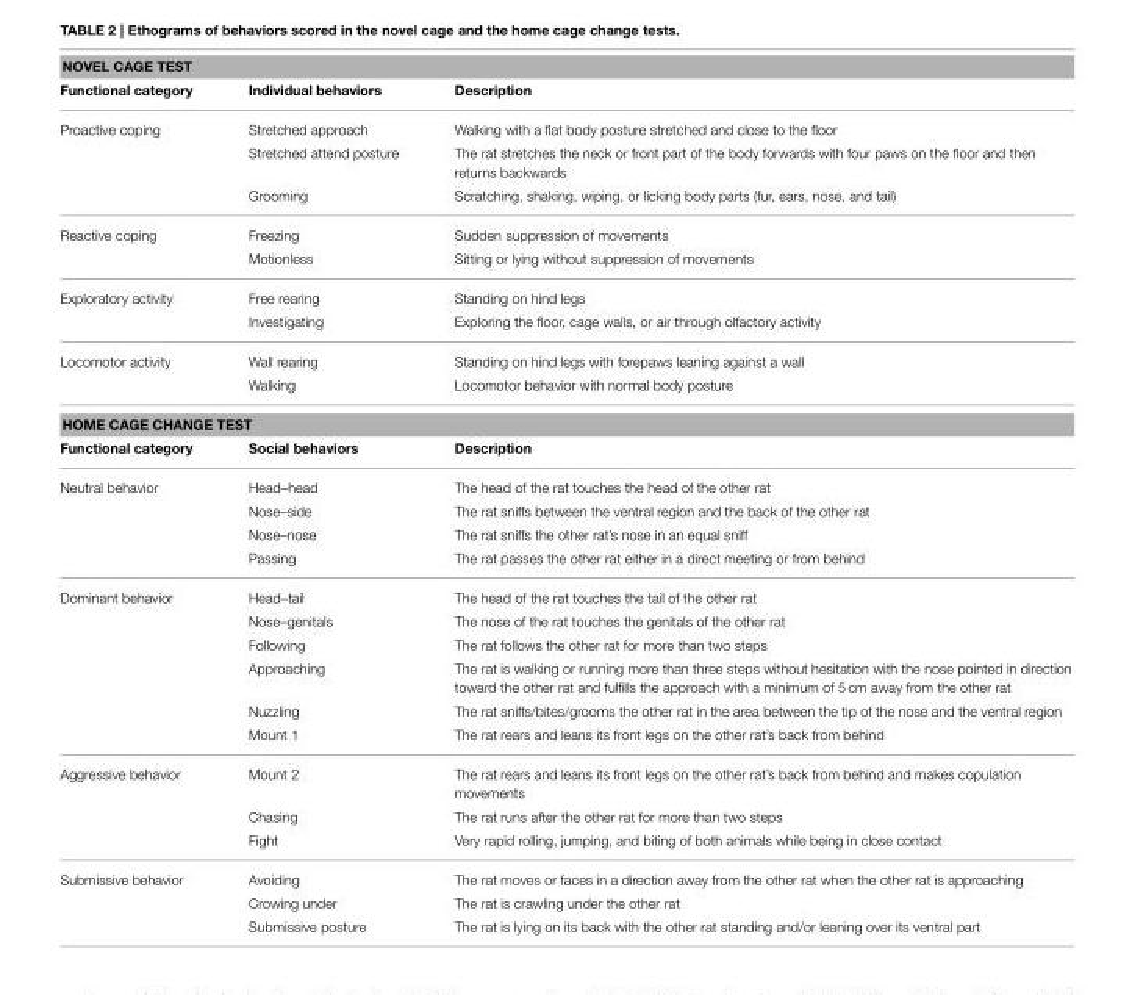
<table><thead><tr><td colspan="3">NOVEL CAGE TEST</td></tr><tr><td>Functional category</td><td>Individual behaviors</td><td>Description</td></tr></thead><tbody><tr><td rowspan="3">Proactive coping</td><td>Stretched approach</td><td>Walking with a flat body posture stretched and close to the floor</td></tr><tr><td>Stretched attend posture</td><td>The rat stretches the neck or front part of the body forwards with four paws on the floor and then returns backwards</td></tr><tr><td>Grooming</td><td>Scratching, shaking, wiping, or licking body parts (fur, ears, nose, and tail)</td></tr><tr><td rowspan="2">Reactive coping</td><td>Freezing</td><td>Sudden suppression of movements</td></tr><tr><td>Motionless</td><td>Sitting or lying without suppression of movements</td></tr><tr><td rowspan="2">Exploratory activity</td><td>Free rearing</td><td>Standing on hind legs</td></tr><tr><td>Investigating</td><td>Exploring the floor, cage walls, or air through olfactory activity</td></tr><tr><td rowspan="2">Locomotor activity</td><td>Wall rearing</td><td>Standing on hind legs with forepaws leaning against a wall</td></tr><tr><td>Walking</td><td>Locomotor behavior with normal body posture</td></tr><tr><td colspan="3">HOME CAGE CHANGE TEST</td></tr><tr><td>Functional category</td><td>Social behaviors</td><td>Description</td></tr><tr><td rowspan="4">Neutral behavior</td><td>Head–head</td><td>The head of the rat touches the head of the other rat</td></tr><tr><td>Nose–side</td><td>The rat sniffs between the ventral region and the back of the other rat</td></tr><tr><td>Nose–nose</td><td>The rat sniffs the other rat’s nose in an equal sniff</td></tr><tr><td>Passing</td><td>The rat passes the other rat either in a direct meeting or from behind</td></tr><tr><td rowspan="6">Dominant behavior</td><td>Head–tail</td><td>The head of the rat touches the tail of the other rat</td></tr><tr><td>Nose–genitals</td><td>The nose of the rat touches the genitals of the other rat</td></tr><tr><td>Following</td><td>The rat follows the other rat for more than two steps</td></tr><tr><td>Approaching</td><td>The rat is walking or running more than three steps without hesitation with the nose pointed in direction toward the other rat and fulfills the approach with a minimum of 5 cm away from the other rat</td></tr><tr><td>Nuzzling</td><td>The rat sniffs/bites/grooms the other rat in the area between the tip of the nose and the ventral region</td></tr><tr><td>Mount 1</td><td>The rat rears and leans its front legs on the other rat’s back from behind</td></tr><tr><td rowspan="3">Aggressive behavior</td><td>Mount 2</td><td>The rat rears and leans its front legs on the other rat’s back from behind and makes copulation movements</td></tr><tr><td>Chasing</td><td>The rat runs after the other rat for more than two steps</td></tr><tr><td>Fight</td><td>Very rapid rolling, jumping, and biting of both animals while being in close contact</td></tr><tr><td rowspan="3">Submissive behavior</td><td>Avoiding</td><td>The rat moves or faces in a direction away from the other rat when the other rat is approaching</td></tr><tr><td>Crowing under</td><td>The rat is crawling under the other rat</td></tr><tr><td>Submissive posture</td><td>The rat is lying on its back with the other rat standing and/or leaning over its ventral part</td></tr></tbody></table>